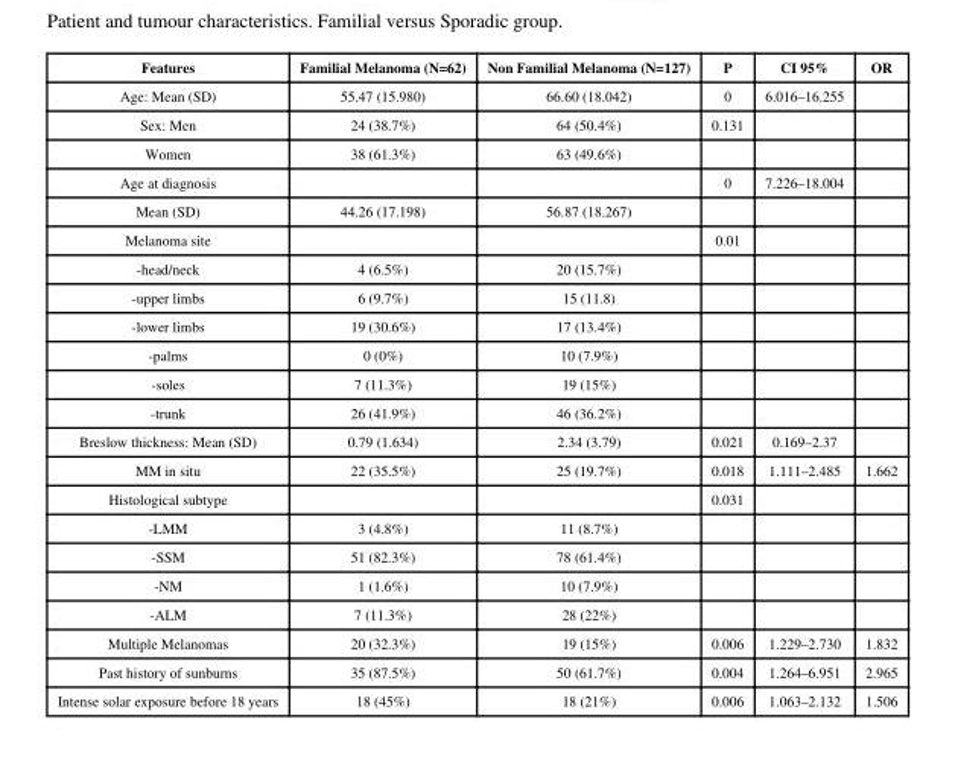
<table><thead><tr><td>Features</td><td>Familial Melanoma (N=62)</td><td>Non Familial Melanoma (N=127)</td><td>P</td><td>CI 95%</td><td>OR</td></tr></thead><tbody><tr><td>Age: Mean (SD)</td><td>55.47 (15.980)</td><td>66.60 (18.042)</td><td>0</td><td>6.016–16.255</td><td></td></tr><tr><td>Sex: Men</td><td>24 (38.7%)</td><td>64 (50.4%)</td><td>0.131</td><td></td><td></td></tr><tr><td>Women</td><td>38 (61.3%)</td><td>63 (49.6%)</td><td></td><td></td><td></td></tr><tr><td>Age at diagnosis</td><td></td><td></td><td>0</td><td>7.226–18.004</td><td></td></tr><tr><td>Mean (SD)</td><td>44.26 (17.198)</td><td>56.87 (18.267)</td><td></td><td></td><td></td></tr><tr><td>Melanoma site</td><td></td><td></td><td>0.01</td><td></td><td></td></tr><tr><td>-head/neck</td><td>4 (6.5%)</td><td>20 (15.7%)</td><td></td><td></td><td></td></tr><tr><td>-upper limbs</td><td>6 (9.7%)</td><td>15 (11.8)</td><td></td><td></td><td></td></tr><tr><td>-lower limbs</td><td>19 (30.6%)</td><td>17 (13.4%)</td><td></td><td></td><td></td></tr><tr><td>-palms</td><td>0 (0%)</td><td>10 (7.9%)</td><td></td><td></td><td></td></tr><tr><td>-soles</td><td>7 (11.3%)</td><td>19 (15%)</td><td></td><td></td><td></td></tr><tr><td>-trunk</td><td>26 (41.9%)</td><td>46 (36.2%)</td><td></td><td></td><td></td></tr><tr><td>Breslow thickness: Mean (SD)</td><td>0.79 (1.634)</td><td>2.34 (3.79)</td><td>0.021</td><td>0.169–2.37</td><td></td></tr><tr><td>MM in situ</td><td>22 (35.5%)</td><td>25 (19.7%)</td><td>0.018</td><td>1.111–2.485</td><td>1.662</td></tr><tr><td>Histological subtype</td><td></td><td></td><td>0.031</td><td></td><td></td></tr><tr><td>-LMM</td><td>3 (4.8%)</td><td>11 (8.7%)</td><td></td><td></td><td></td></tr><tr><td>-SSM</td><td>51 (82.3%)</td><td>78 (61.4%)</td><td></td><td></td><td></td></tr><tr><td>-NM</td><td>1 (1.6%)</td><td>10 (7.9%)</td><td></td><td></td><td></td></tr><tr><td>-ALM</td><td>7 (11.3%)</td><td>28 (22%)</td><td></td><td></td><td></td></tr><tr><td>Multiple Melanomas</td><td>20 (32.3%)</td><td>19 (15%)</td><td>0.006</td><td>1.229–2.730</td><td>1.832</td></tr><tr><td>Past history of sunburns</td><td>35 (87.5%)</td><td>50 (61.7%)</td><td>0.004</td><td>1.264–6.951</td><td>2.965</td></tr><tr><td>Intense solar exposure before 18 years</td><td>18 (45%)</td><td>18 (21%)</td><td>0.006</td><td>1.063–2.132</td><td>1.506</td></tr></tbody></table>